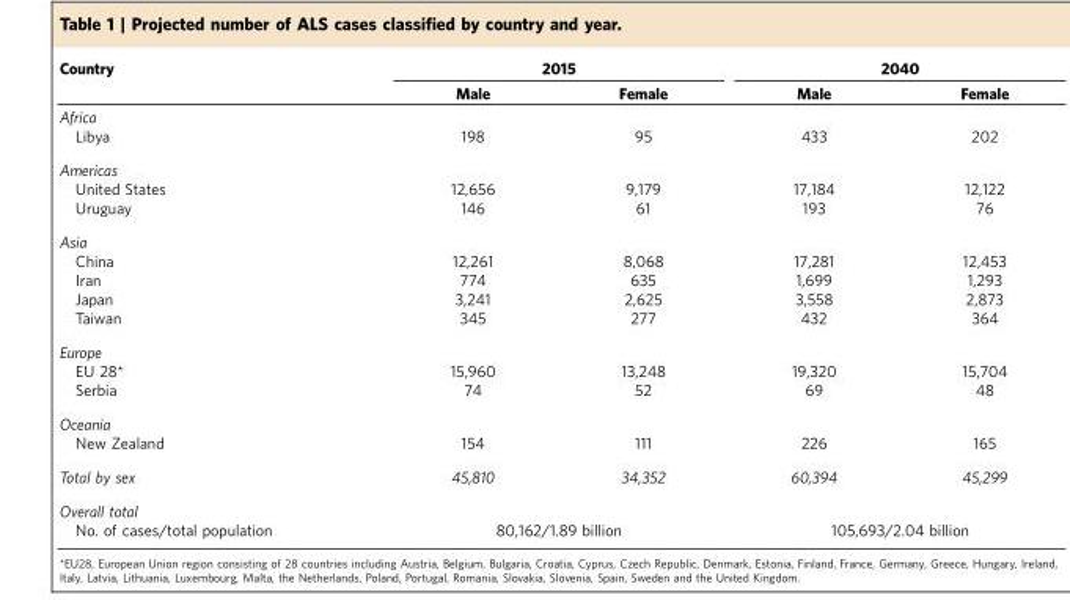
<table><thead><tr><td rowspan="2">Country</td><td colspan="2">2015</td><td colspan="2">2040</td></tr><tr><td>Male</td><td>Female</td><td>Male</td><td>Female</td></tr></thead><tbody><tr><td colspan="5">Africa</td></tr><tr><td>Libya</td><td>198</td><td>95</td><td>433</td><td>202</td></tr><tr><td colspan="5">Americas</td></tr><tr><td>United States</td><td>12,656</td><td>9,179</td><td>17,184</td><td>12,122</td></tr><tr><td>Uruguay</td><td>146</td><td>61</td><td>193</td><td>76</td></tr><tr><td colspan="5">Asia</td></tr><tr><td>China</td><td>12,261</td><td>8,068</td><td>17,281</td><td>12,453</td></tr><tr><td>Iran</td><td>774</td><td>635</td><td>1,699</td><td>1,293</td></tr><tr><td>Japan</td><td>3,241</td><td>2,625</td><td>3,558</td><td>2,873</td></tr><tr><td>Taiwan</td><td>345</td><td>277</td><td>432</td><td>364</td></tr><tr><td colspan="5">Europe</td></tr><tr><td>EU 28*</td><td>15,960</td><td>13,248</td><td>19,320</td><td>15,704</td></tr><tr><td>Serbia</td><td>74</td><td>52</td><td>69</td><td>48</td></tr><tr><td colspan="5">Oceania</td></tr><tr><td>New Zealand</td><td>154</td><td>111</td><td>226</td><td>165</td></tr><tr><td>Total by sex</td><td>45,810</td><td>34,352</td><td>60,394</td><td>45,299</td></tr><tr><td colspan="5">Overall total</td></tr><tr><td>No. of cases/total population</td><td colspan="2">80,162/1.89 billion</td><td colspan="2">105,693/2.04 billion</td></tr></tbody></table>